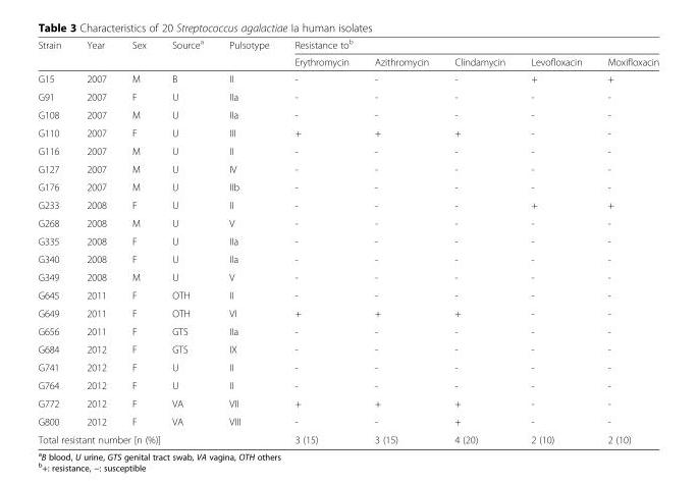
<table><thead><tr><td rowspan="2">Strain</td><td rowspan="2">Year</td><td rowspan="2">Sex</td><td rowspan="2">Source<sup>a</sup></td><td rowspan="2">Pulsotype</td><td colspan="5">Resistance to<sup>b</sup></td></tr><tr><td>Erythromycin</td><td>Azithromycin</td><td>Clindamycin</td><td>Levofloxacin</td><td>Moxifloxacin</td></tr></thead><tbody><tr><td>G15</td><td>2007</td><td>M</td><td>B</td><td>II</td><td>-</td><td>-</td><td>-</td><td>+</td><td>+</td></tr><tr><td>G91</td><td>2007</td><td>F</td><td>U</td><td>IIa</td><td>-</td><td>-</td><td>-</td><td>-</td><td>-</td></tr><tr><td>G108</td><td>2007</td><td>M</td><td>U</td><td>IIa</td><td>-</td><td>-</td><td>-</td><td>-</td><td>-</td></tr><tr><td>G110</td><td>2007</td><td>F</td><td>U</td><td>III</td><td>+</td><td>+</td><td>+</td><td>-</td><td>-</td></tr><tr><td>G116</td><td>2007</td><td>M</td><td>U</td><td>II</td><td>-</td><td>-</td><td>-</td><td>-</td><td>-</td></tr><tr><td>G127</td><td>2007</td><td>M</td><td>U</td><td>IV</td><td>-</td><td>-</td><td>-</td><td>-</td><td>-</td></tr><tr><td>G176</td><td>2007</td><td>M</td><td>U</td><td>IIb</td><td>-</td><td>-</td><td>-</td><td>-</td><td>-</td></tr><tr><td>G233</td><td>2008</td><td>F</td><td>U</td><td>II</td><td>-</td><td>-</td><td>-</td><td>+</td><td>+</td></tr><tr><td>G268</td><td>2008</td><td>M</td><td>U</td><td>V</td><td>-</td><td>-</td><td>-</td><td>-</td><td>-</td></tr><tr><td>G335</td><td>2008</td><td>F</td><td>U</td><td>IIa</td><td>-</td><td>-</td><td>-</td><td>-</td><td>-</td></tr><tr><td>G340</td><td>2008</td><td>F</td><td>U</td><td>IIa</td><td>-</td><td>-</td><td>-</td><td>-</td><td>-</td></tr><tr><td>G349</td><td>2008</td><td>M</td><td>U</td><td>V</td><td>-</td><td>-</td><td>-</td><td>-</td><td>-</td></tr><tr><td>G645</td><td>2011</td><td>F</td><td>OTH</td><td>II</td><td>-</td><td>-</td><td>-</td><td>-</td><td>-</td></tr><tr><td>G649</td><td>2011</td><td>F</td><td>OTH</td><td>VI</td><td>+</td><td>+</td><td>+</td><td>-</td><td>-</td></tr><tr><td>G656</td><td>2011</td><td>F</td><td>GTS</td><td>IIa</td><td>-</td><td>-</td><td>-</td><td>-</td><td>-</td></tr><tr><td>G684</td><td>2012</td><td>F</td><td>GTS</td><td>IX</td><td>-</td><td>-</td><td>-</td><td>-</td><td>-</td></tr><tr><td>G741</td><td>2012</td><td>F</td><td>U</td><td>II</td><td>-</td><td>-</td><td>-</td><td>-</td><td>-</td></tr><tr><td>G764</td><td>2012</td><td>F</td><td>U</td><td>II</td><td>-</td><td>-</td><td>-</td><td>-</td><td>-</td></tr><tr><td>G772</td><td>2012</td><td>F</td><td>VA</td><td>VII</td><td>+</td><td>+</td><td>+</td><td>-</td><td>-</td></tr><tr><td>G800</td><td>2012</td><td>F</td><td>VA</td><td>VIII</td><td>-</td><td>-</td><td>+</td><td>-</td><td>-</td></tr><tr><td colspan="5">Total resistant number [n (%)]</td><td>3 (15)</td><td>3 (15)</td><td>4 (20)</td><td>2 (10)</td><td>2 (10)</td></tr></tbody></table>